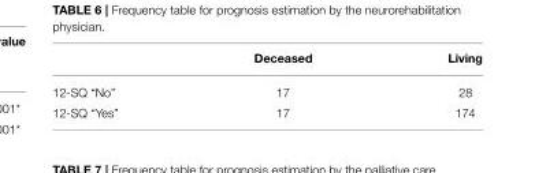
<table><thead><tr><td></td><td>Deceased</td><td>Living</td></tr></thead><tbody><tr><td>12-SQ “No”</td><td>17</td><td>28</td></tr><tr><td>12-SQ “Yes”</td><td>17</td><td>174</td></tr></tbody></table>